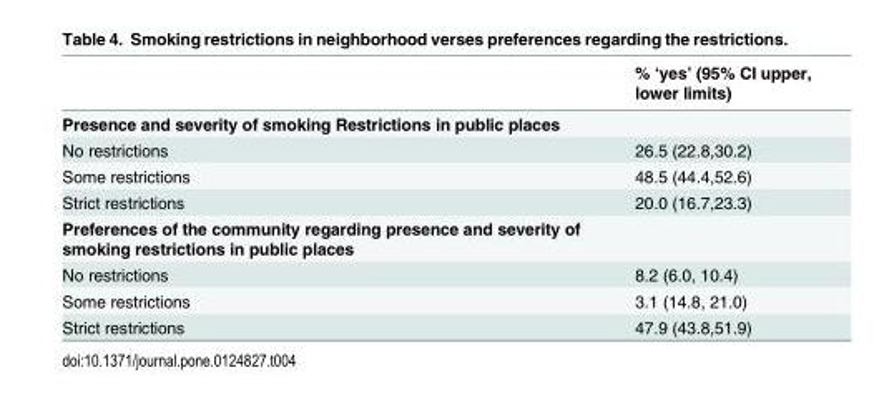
<table><thead><tr><td></td><td>% ‘yes’ (95% CI upper, lower limits)</td></tr></thead><tbody><tr><td colspan="2">Presence and severity of smoking Restrictions in public places</td></tr><tr><td>No restrictions</td><td>26.5 (22.8,30.2)</td></tr><tr><td>Some restrictions</td><td>48.5 (44.4,52.6)</td></tr><tr><td>Strict restrictions</td><td>20.0 (16.7,23.3)</td></tr><tr><td colspan="2">Preferences of the community regarding presence and severity of smoking restrictions in public places</td></tr><tr><td>No restrictions</td><td>8.2 (6.0, 10.4)</td></tr><tr><td>Some restrictions</td><td>3.1 (14.8, 21.0)</td></tr><tr><td>Strict restrictions</td><td>47.9 (43.8,51.9)</td></tr></tbody></table>